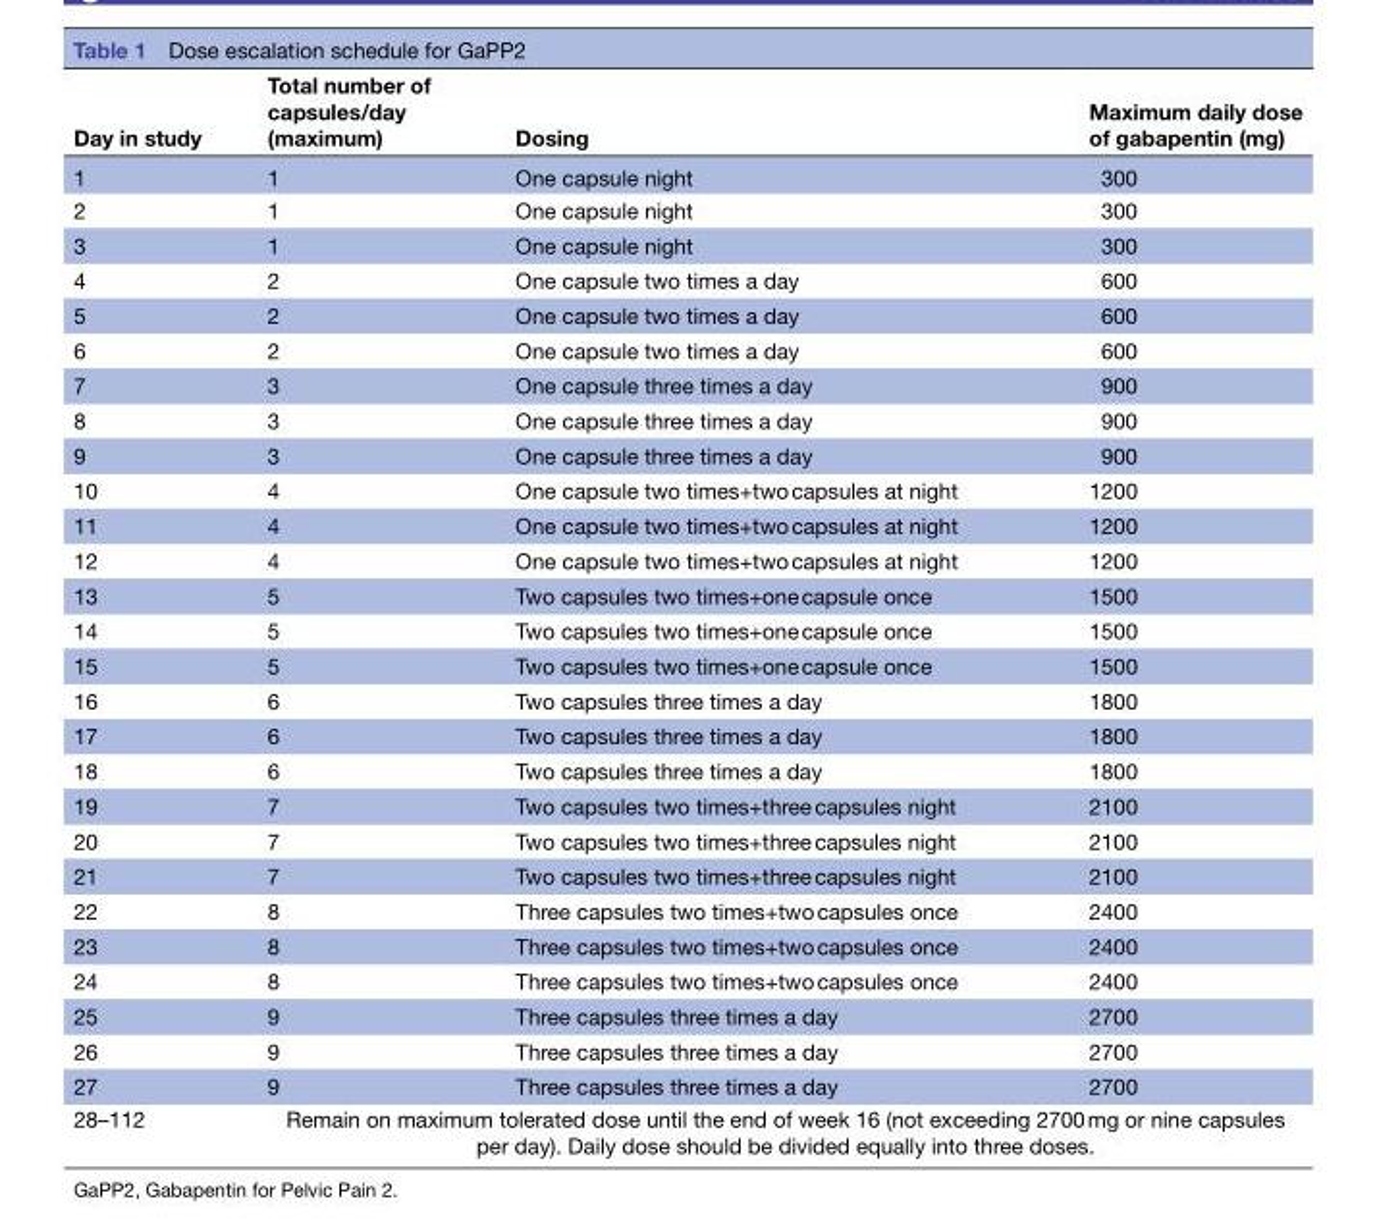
<table><thead><tr><td>Day in study</td><td>Total number of capsules/day (maximum)</td><td>Dosing</td><td>Maximum daily dose of gabapentin (mg)</td></tr></thead><tbody><tr><td>1</td><td>1</td><td>One capsule night</td><td>300</td></tr><tr><td>2</td><td>1</td><td>One capsule night</td><td>300</td></tr><tr><td>3</td><td>1</td><td>One capsule night</td><td>300</td></tr><tr><td>4</td><td>2</td><td>One capsule two times a day</td><td>600</td></tr><tr><td>5</td><td>2</td><td>One capsule two times a day</td><td>600</td></tr><tr><td>6</td><td>2</td><td>One capsule two times a day</td><td>600</td></tr><tr><td>7</td><td>3</td><td>One capsule three times a day</td><td>900</td></tr><tr><td>8</td><td>3</td><td>One capsule three times a day</td><td>900</td></tr><tr><td>9</td><td>3</td><td>One capsule three times a day</td><td>900</td></tr><tr><td>10</td><td>4</td><td>One capsule two times+two capsules at night</td><td>1200</td></tr><tr><td>11</td><td>4</td><td>One capsule two times+two capsules at night</td><td>1200</td></tr><tr><td>12</td><td>4</td><td>One capsule two times+two capsules at night</td><td>1200</td></tr><tr><td>13</td><td>5</td><td>Two capsules two times+one capsule once</td><td>1500</td></tr><tr><td>14</td><td>5</td><td>Two capsules two times+one capsule once</td><td>1500</td></tr><tr><td>15</td><td>5</td><td>Two capsules two times+one capsule once</td><td>1500</td></tr><tr><td>16</td><td>6</td><td>Two capsules three times a day</td><td>1800</td></tr><tr><td>17</td><td>6</td><td>Two capsules three times a day</td><td>1800</td></tr><tr><td>18</td><td>6</td><td>Two capsules three times a day</td><td>1800</td></tr><tr><td>19</td><td>7</td><td>Two capsules two times+three capsules night</td><td>2100</td></tr><tr><td>20</td><td>7</td><td>Two capsules two times+three capsules night</td><td>2100</td></tr><tr><td>21</td><td>7</td><td>Two capsules two times+three capsules night</td><td>2100</td></tr><tr><td>22</td><td>8</td><td>Three capsules two times+two capsules once</td><td>2400</td></tr><tr><td>23</td><td>8</td><td>Three capsules two times+two capsules once</td><td>2400</td></tr><tr><td>24</td><td>8</td><td>Three capsules two times+two capsules once</td><td>2400</td></tr><tr><td>25</td><td>9</td><td>Three capsules three times a day</td><td>2700</td></tr><tr><td>26</td><td>9</td><td>Three capsules three times a day</td><td>2700</td></tr><tr><td>27</td><td>9</td><td>Three capsules three times a day</td><td>2700</td></tr><tr><td>28–112</td><td colspan="3">Remain on maximum tolerated dose until the end of week 16 (not exceeding 2700 mg or nine capsules per day). Daily dose should be divided equally into three doses.</td></tr></tbody></table>